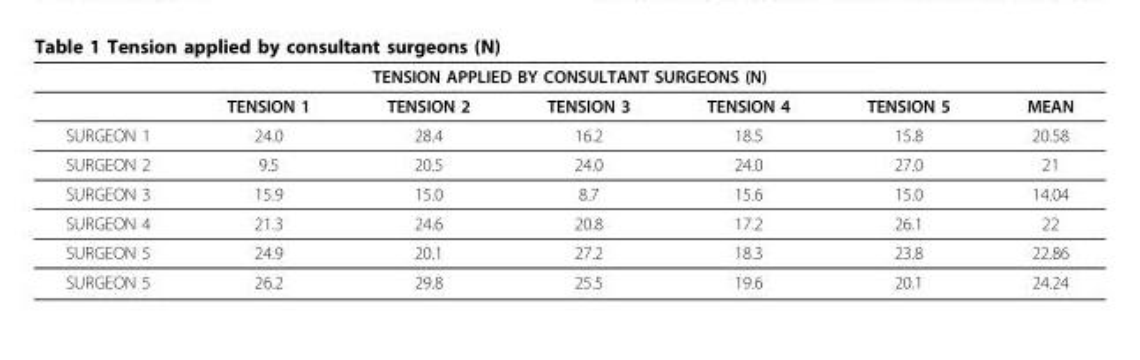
<table><thead><tr><td colspan="7">TENSION APPLIED BY CONSULTANT SURGEONS (N)</td></tr><tr><td></td><td>TENSION 1</td><td>TENSION 2</td><td>TENSION 3</td><td>TENSION 4</td><td>TENSION 5</td><td>MEAN</td></tr></thead><tbody><tr><td>SURGEON 1</td><td>24.0</td><td>28.4</td><td>16.2</td><td>18.5</td><td>15.8</td><td>20.58</td></tr><tr><td>SURGEON 2</td><td>9.5</td><td>20.5</td><td>24.0</td><td>24.0</td><td>27.0</td><td>21</td></tr><tr><td>SURGEON 3</td><td>15.9</td><td>15.0</td><td>8.7</td><td>15.6</td><td>15.0</td><td>14.04</td></tr><tr><td>SURGEON 4</td><td>21.3</td><td>24.6</td><td>20.8</td><td>17.2</td><td>26.1</td><td>22</td></tr><tr><td>SURGEON 5</td><td>24.9</td><td>20.1</td><td>27.2</td><td>18.3</td><td>23.8</td><td>22.86</td></tr><tr><td>SURGEON 5</td><td>26.2</td><td>29.8</td><td>25.5</td><td>19.6</td><td>20.1</td><td>24.24</td></tr></tbody></table>